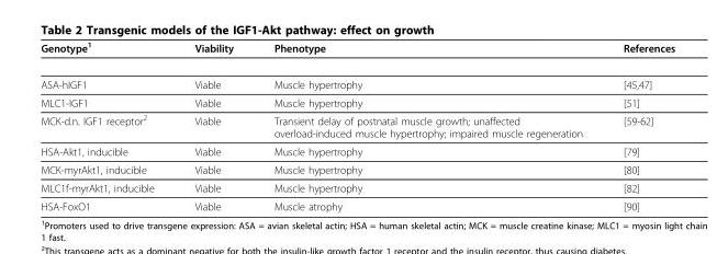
<table><thead><tr><td>Genotype<sup>1</sup></td><td>Viability</td><td>Phenotype</td><td>References</td></tr></thead><tbody><tr><td>ASA-hIGF1</td><td>Viable</td><td>Muscle hypertrophy</td><td>[45,47]</td></tr><tr><td>MLC1-IGF1</td><td>Viable</td><td>Muscle hypertrophy</td><td>[51]</td></tr><tr><td>MCK-d.n. IGF1 receptor<sup>2</sup></td><td>Viable</td><td>Transient delay of postnatal muscle growth; unaffected overload-induced muscle hypertrophy; impaired muscle regeneration</td><td>[59-62]</td></tr><tr><td>HSA-Akt1, inducible</td><td>Viable</td><td>Muscle hypertrophy</td><td>[79]</td></tr><tr><td>MCK-myrAkt1, inducible</td><td>Viable</td><td>Muscle hypertrophy</td><td>[80]</td></tr><tr><td>MLC1f-myrAkt1, inducible</td><td>Viable</td><td>Muscle hypertrophy</td><td>[82]</td></tr><tr><td>HSA-FoxO1</td><td>Viable</td><td>Muscle atrophy</td><td>[90]</td></tr></tbody></table>